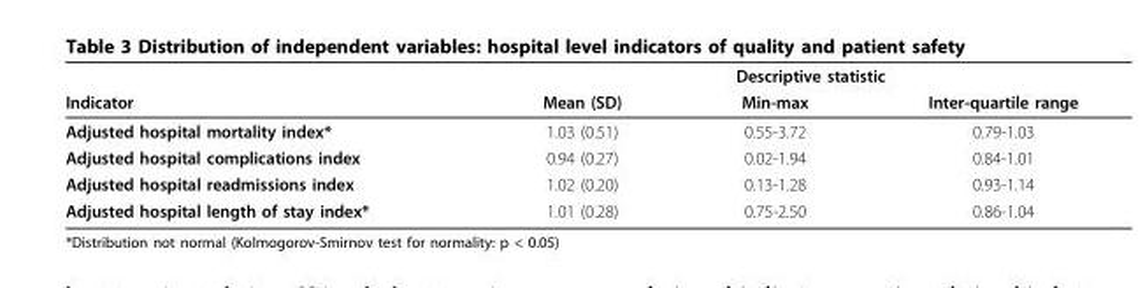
<table><thead><tr><td rowspan="2">Indicator</td><td colspan="3">Descriptive statistic</td></tr><tr><td>Mean (SD)</td><td>Min-max</td><td>Inter-quartile range</td></tr></thead><tbody><tr><td>Adjusted hospital mortality index*</td><td>1.03 (0.51)</td><td>0.55-3.72</td><td>0.79-1.03</td></tr><tr><td>Adjusted hospital complications index</td><td>0.94 (0.27)</td><td>0.02-1.94</td><td>0.84-1.01</td></tr><tr><td>Adjusted hospital readmissions index</td><td>1.02 (0.20)</td><td>0.13-1.28</td><td>0.93-1.14</td></tr><tr><td>Adjusted hospital length of stay index*</td><td>1.01 (0.28)</td><td>0.75-2.50</td><td>0.86-1.04</td></tr></tbody></table>